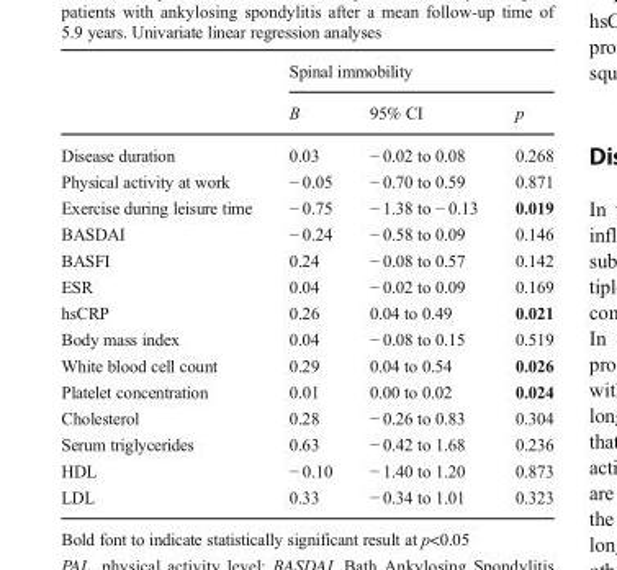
<table><thead><tr><td rowspan="2"></td><td colspan="3">Spinal immobility</td></tr><tr><td>B</td><td>95% CI</td><td>p</td></tr></thead><tbody><tr><td>Disease duration</td><td>0.03</td><td>− 0.02 to 0.08</td><td>0.268</td></tr><tr><td>Physical activity at work</td><td>− 0.05</td><td>− 0.70 to 0.59</td><td>0.871</td></tr><tr><td>Exercise during leisure time</td><td>− 0.75</td><td>− 1.38 to − 0.13</td><td>0.019</td></tr><tr><td>BASDAI</td><td>− 0.24</td><td>− 0.58 to 0.09</td><td>0.146</td></tr><tr><td>BASFI</td><td>0.24</td><td>− 0.08 to 0.57</td><td>0.142</td></tr><tr><td>ESR</td><td>0.04</td><td>− 0.02 to 0.09</td><td>0.169</td></tr><tr><td>hsCRP</td><td>0.26</td><td>0.04 to 0.49</td><td>0.021</td></tr><tr><td>Body mass index</td><td>0.04</td><td>− 0.08 to 0.15</td><td>0.519</td></tr><tr><td>White blood cell count</td><td>0.29</td><td>0.04 to 0.54</td><td>0.026</td></tr><tr><td>Platelet concentration</td><td>0.01</td><td>0.00 to 0.02</td><td>0.024</td></tr><tr><td>Cholesterol</td><td>0.28</td><td>− 0.26 to 0.83</td><td>0.304</td></tr><tr><td>Serum triglycerides</td><td>0.63</td><td>− 0.42 to 1.68</td><td>0.236</td></tr><tr><td>HDL</td><td>− 0.10</td><td>− 1.40 to 1.20</td><td>0.873</td></tr><tr><td>LDL</td><td>0.33</td><td>− 0.34 to 1.01</td><td>0.323</td></tr></tbody></table>